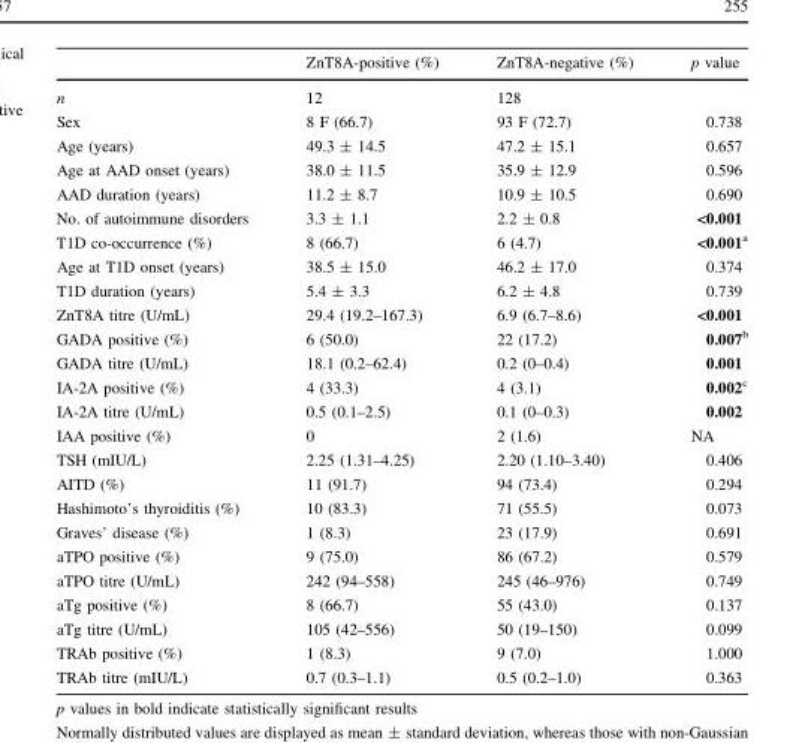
<table><thead><tr><td></td><td>ZnT8A-positive (%)</td><td>ZnT8A-negative (%)</td><td>p value</td></tr></thead><tbody><tr><td>n</td><td>12</td><td>128</td><td></td></tr><tr><td>Sex</td><td>8 F (66.7)</td><td>93 F (72.7)</td><td>0.738</td></tr><tr><td>Age (years)</td><td>49.3 ± 14.5</td><td>47.2 ± 15.1</td><td>0.657</td></tr><tr><td>Age at AAD onset (years)</td><td>38.0 ± 11.5</td><td>35.9 ± 12.9</td><td>0.596</td></tr><tr><td>AAD duration (years)</td><td>11.2 ± 8.7</td><td>10.9 ± 10.5</td><td>0.690</td></tr><tr><td>No. of autoimmune disorders</td><td>3.3 ± 1.1</td><td>2.2 ± 0.8</td><td>&lt;0.001</td></tr><tr><td>T1D co-occurrence (%)</td><td>8 (66.7)</td><td>6 (4.7)</td><td>&lt;0.001<sup>a</sup></td></tr><tr><td>Age at T1D onset (years)</td><td>38.5 ± 15.0</td><td>46.2 ± 17.0</td><td>0.374</td></tr><tr><td>T1D duration (years)</td><td>5.4 ± 3.3</td><td>6.2 ± 4.8</td><td>0.739</td></tr><tr><td>ZnT8A titre (U/mL)</td><td>29.4 (19.2–167.3)</td><td>6.9 (6.7–8.6)</td><td>&lt;0.001</td></tr><tr><td>GADA positive (%)</td><td>6 (50.0)</td><td>22 (17.2)</td><td>0.007<sup>b</sup></td></tr><tr><td>GADA titre (U/mL)</td><td>18.1 (0.2–62.4)</td><td>0.2 (0–0.4)</td><td>0.001</td></tr><tr><td>IA-2A positive (%)</td><td>4 (33.3)</td><td>4 (3.1)</td><td>0.002<sup>c</sup></td></tr><tr><td>IA-2A titre (U/mL)</td><td>0.5 (0.1–2.5)</td><td>0.1 (0–0.3)</td><td>0.002</td></tr><tr><td>IAA positive (%)</td><td>0</td><td>2 (1.6)</td><td>NA</td></tr><tr><td>TSH (mIU/L)</td><td>2.25 (1.31–4.25)</td><td>2.20 (1.10–3.40)</td><td>0.406</td></tr><tr><td>AITD (%)</td><td>11 (91.7)</td><td>94 (73.4)</td><td>0.294</td></tr><tr><td>Hashimoto’s thyroiditis (%)</td><td>10 (83.3)</td><td>71 (55.5)</td><td>0.073</td></tr><tr><td>Graves’ disease (%)</td><td>1 (8.3)</td><td>23 (17.9)</td><td>0.691</td></tr><tr><td>aTPO positive (%)</td><td>9 (75.0)</td><td>86 (67.2)</td><td>0.579</td></tr><tr><td>aTPO titre (U/mL)</td><td>242 (94–558)</td><td>245 (46–976)</td><td>0.749</td></tr><tr><td>aTg positive (%)</td><td>8 (66.7)</td><td>55 (43.0)</td><td>0.137</td></tr><tr><td>aTg titre (U/mL)</td><td>105 (42–556)</td><td>50 (19–150)</td><td>0.099</td></tr><tr><td>TRAb positive (%)</td><td>1 (8.3)</td><td>9 (7.0)</td><td>1.000</td></tr><tr><td>TRAb titre (mIU/L)</td><td>0.7 (0.3–1.1)</td><td>0.5 (0.2–1.0)</td><td>0.363</td></tr></tbody></table>